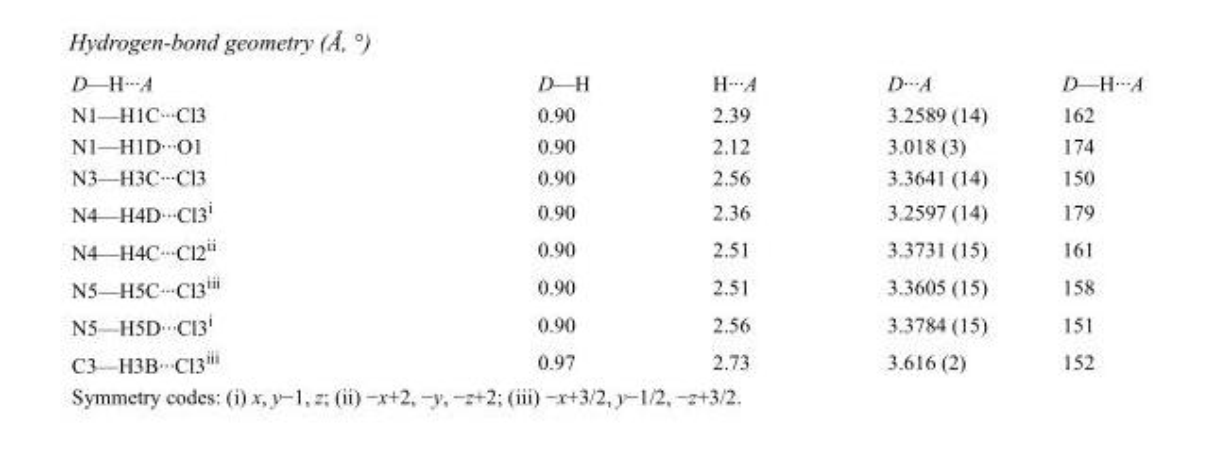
<table><tbody><tr><td>D—H···A</td><td>D—H</td><td>H···A</td><td>D···A</td><td>D—H···A</td></tr><tr><td>N1—H1C···Cl3</td><td>0.90</td><td>2.39</td><td>3.2589 (14)</td><td>162</td></tr><tr><td>N1—H1D···O1</td><td>0.90</td><td>2.12</td><td>3.018 (3)</td><td>174</td></tr><tr><td>N3—H3C···Cl3</td><td>0.90</td><td>2.56</td><td>3.3641 (14)</td><td>150</td></tr><tr><td>N4—H4D···Cl3<sup>i</sup></td><td>0.90</td><td>2.36</td><td>3.2597 (14)</td><td>179</td></tr><tr><td>N4—H4C···Cl2<sup>ii</sup></td><td>0.90</td><td>2.51</td><td>3.3731 (15)</td><td>161</td></tr><tr><td>N5—H5C···Cl3<sup>iii</sup></td><td>0.90</td><td>2.51</td><td>3.3605 (15)</td><td>158</td></tr><tr><td>N5—H5D···Cl3<sup>i</sup></td><td>0.90</td><td>2.56</td><td>3.3784 (15)</td><td>151</td></tr><tr><td>C3—H3B···Cl3<sup>iii</sup></td><td>0.97</td><td>2.73</td><td>3.616 (2)</td><td>152</td></tr></tbody></table>